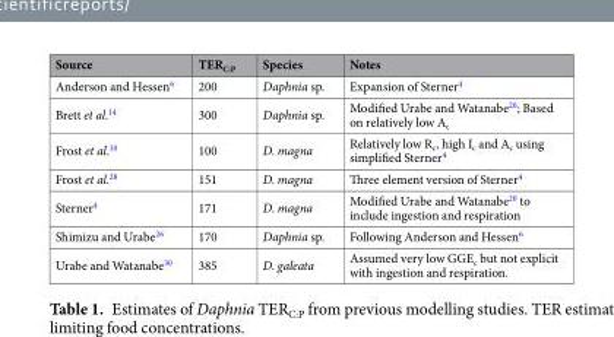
<table><thead><tr><td>Source</td><td>TER<sub>C:P</sub></td><td>Species</td><td>Notes</td></tr></thead><tbody><tr><td>Anderson and Hessen<sup>6</sup></td><td>200</td><td>Daphnia sp.</td><td>Expansion of Sterner<sup>4</sup></td></tr><tr><td>Brett et al.<sup>14</sup></td><td>300</td><td>Daphnia sp.</td><td>Modified Urabe and Watanabe<sup>20</sup>; Based on relatively low A<sub>c</sub></td></tr><tr><td>Frost et al.<sup>10</sup></td><td>100</td><td>D. magna</td><td>Relatively low R<sub>c</sub>, high I<sub>c</sub> and A<sub>c</sub> using simplified Sterner<sup>4</sup></td></tr><tr><td>Frost et al.<sup>28</sup></td><td>151</td><td>D. magna</td><td>Three element version of Sterner<sup>4</sup></td></tr><tr><td>Sterner<sup>4</sup></td><td>171</td><td>D. magna</td><td>Modified Urabe and Watanabe<sup>20</sup> to include ingestion and respiration</td></tr><tr><td>Shimizu and Urabe<sup>26</sup></td><td>170</td><td>Daphnia sp.</td><td>Following Anderson and Hessen<sup>6</sup></td></tr><tr><td>Urabe and Watanabe<sup>30</sup></td><td>385</td><td>D. galeata</td><td>Assumed very low GGE<sub>c</sub> but not explicit with ingestion and respiration.</td></tr></tbody></table>